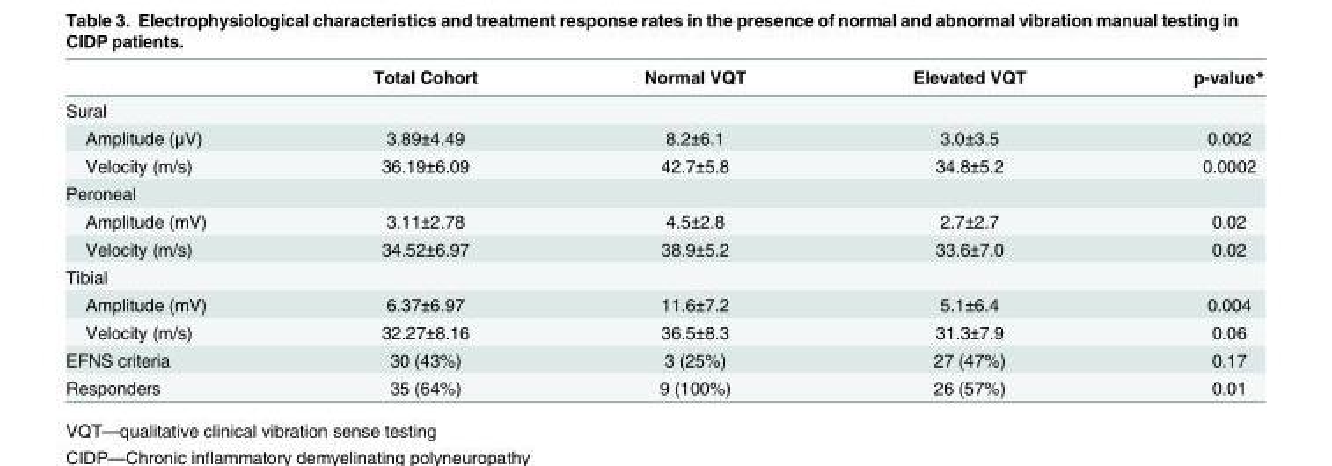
<table><thead><tr><td></td><td>Total Cohort</td><td>Normal VQT</td><td>Elevated VQT</td><td>p-value*</td></tr></thead><tbody><tr><td colspan="5">Sural</td></tr><tr><td>Amplitude (μV)</td><td>3.89±4.49</td><td>8.2±6.1</td><td>3.0±3.5</td><td>0.002</td></tr><tr><td>Velocity (m/s)</td><td>36.19±6.09</td><td>42.7±5.8</td><td>34.8±5.2</td><td>0.0002</td></tr><tr><td colspan="5">Peroneal</td></tr><tr><td>Amplitude (mV)</td><td>3.11±2.78</td><td>4.5±2.8</td><td>2.7±2.7</td><td>0.02</td></tr><tr><td>Velocity (m/s)</td><td>34.52±6.97</td><td>38.9±5.2</td><td>33.6±7.0</td><td>0.02</td></tr><tr><td colspan="5">Tibial</td></tr><tr><td>Amplitude (mV)</td><td>6.37±6.97</td><td>11.6±7.2</td><td>5.1±6.4</td><td>0.004</td></tr><tr><td>Velocity (m/s)</td><td>32.27±8.16</td><td>36.5±8.3</td><td>31.3±7.9</td><td>0.06</td></tr><tr><td>EFNS criteria</td><td>30 (43%)</td><td>3 (25%)</td><td>27 (47%)</td><td>0.17</td></tr><tr><td>Responders</td><td>35 (64%)</td><td>9 (100%)</td><td>26 (57%)</td><td>0.01</td></tr></tbody></table>